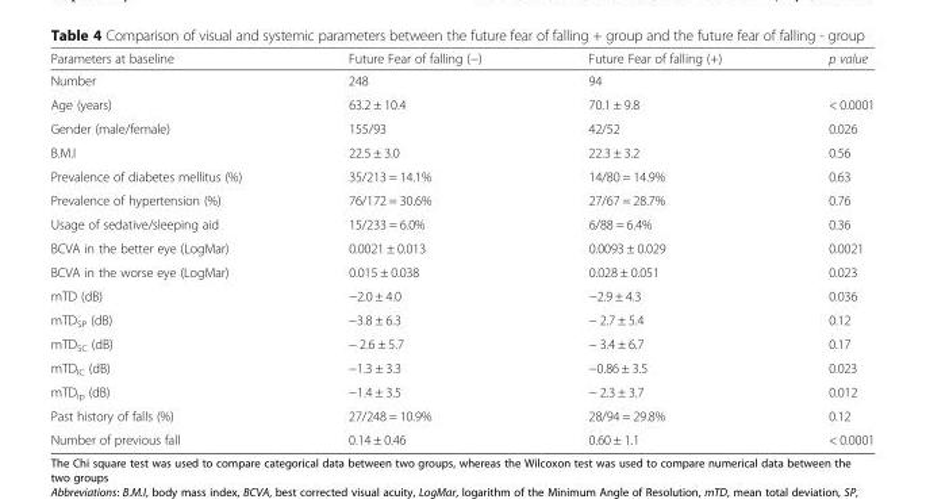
<table><thead><tr><td>Parameters at baseline</td><td>Future Fear of falling (−)</td><td>Future Fear of falling (+)</td><td>p value</td></tr></thead><tbody><tr><td>Number</td><td>248</td><td>94</td><td></td></tr><tr><td>Age (years)</td><td>63.2 ± 10.4</td><td>70.1 ± 9.8</td><td>&lt; 0.0001</td></tr><tr><td>Gender (male/female)</td><td>155/93</td><td>42/52</td><td>0.026</td></tr><tr><td>B.M.I</td><td>22.5 ± 3.0</td><td>22.3 ± 3.2</td><td>0.56</td></tr><tr><td>Prevalence of diabetes mellitus (%)</td><td>35/213 = 14.1%</td><td>14/80 = 14.9%</td><td>0.63</td></tr><tr><td>Prevalence of hypertension (%)</td><td>76/172 = 30.6%</td><td>27/67 = 28.7%</td><td>0.76</td></tr><tr><td>Usage of sedative/sleeping aid</td><td>15/233 = 6.0%</td><td>6/88 = 6.4%</td><td>0.36</td></tr><tr><td>BCVA in the better eye (LogMar)</td><td>0.0021 ± 0.013</td><td>0.0093 ± 0.029</td><td>0.0021</td></tr><tr><td>BCVA in the worse eye (LogMar)</td><td>0.015 ± 0.038</td><td>0.028 ± 0.051</td><td>0.023</td></tr><tr><td>mTD (dB)</td><td>−2.0 ± 4.0</td><td>−2.9 ± 4.3</td><td>0.036</td></tr><tr><td>mTD<sub>SP</sub> (dB)</td><td>−3.8 ± 6.3</td><td>− 2.7 ± 5.4</td><td>0.12</td></tr><tr><td>mTD<sub>SC</sub> (dB)</td><td>− 2.6 ± 5.7</td><td>− 3.4 ± 6.7</td><td>0.17</td></tr><tr><td>mTD<sub>IC</sub> (dB)</td><td>−1.3 ± 3.3</td><td>−0.86 ± 3.5</td><td>0.023</td></tr><tr><td>mTD<sub>ip</sub> (dB)</td><td>−1.4 ± 3.5</td><td>− 2.3 ± 3.7</td><td>0.012</td></tr><tr><td>Past history of falls (%)</td><td>27/248 = 10.9%</td><td>28/94 = 29.8%</td><td>0.12</td></tr><tr><td>Number of previous fall</td><td>0.14 ± 0.46</td><td>0.60 ± 1.1</td><td>&lt; 0.0001</td></tr></tbody></table>